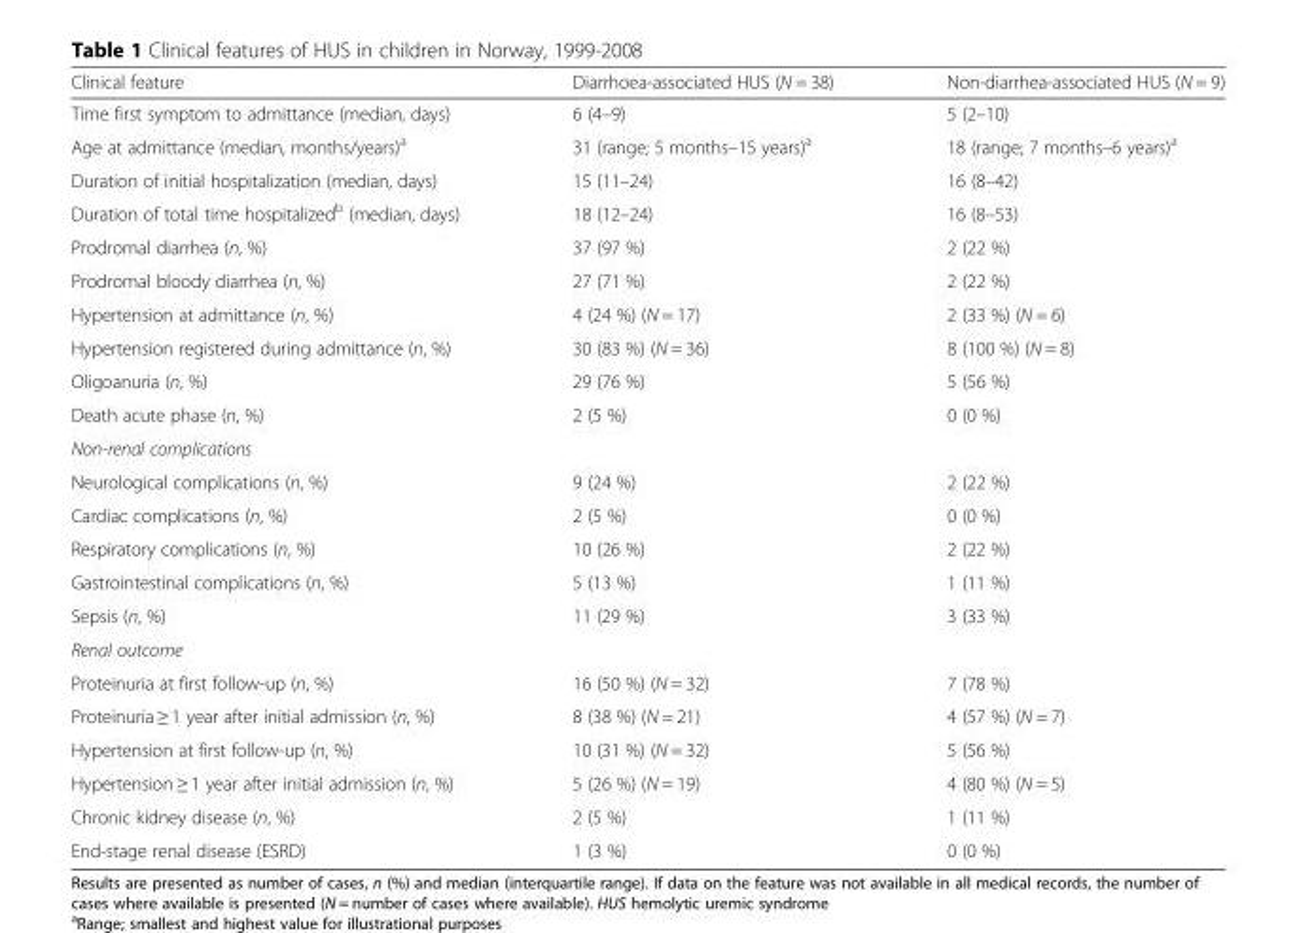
<table><thead><tr><td>Clinical feature</td><td>Diarrhoea-associated HUS (N = 38)</td><td>Non-diarrhea-associated HUS (N = 9)</td></tr></thead><tbody><tr><td>Time first symptom to admittance (median, days)</td><td>6 (4–9)</td><td>5 (2–10)</td></tr><tr><td>Age at admittance (median, months/years)<sup>a</sup></td><td>31 (range; 5 months–15 years)<sup>a</sup></td><td>18 (range; 7 months–6 years)<sup>a</sup></td></tr><tr><td>Duration of initial hospitalization (median, days)</td><td>15 (11–24)</td><td>16 (8–42)</td></tr><tr><td>Duration of total time hospitalized<sup>b</sup> (median, days)</td><td>18 (12–24)</td><td>16 (8–53)</td></tr><tr><td>Prodromal diarrhea (n, %)</td><td>37 (97 %)</td><td>2 (22 %)</td></tr><tr><td>Prodromal bloody diarrhea (n, %)</td><td>27 (71 %)</td><td>2 (22 %)</td></tr><tr><td>Hypertension at admittance (n, %)</td><td>4 (24 %) (N = 17)</td><td>2 (33 %) (N = 6)</td></tr><tr><td>Hypertension registered during admittance (n, %)</td><td>30 (83 %) (N = 36)</td><td>8 (100 %) (N = 8)</td></tr><tr><td>Oligoanuria (n, %)</td><td>29 (76 %)</td><td>5 (56 %)</td></tr><tr><td>Death acute phase (n, %)</td><td>2 (5 %)</td><td>0 (0 %)</td></tr><tr><td colspan="3">Non-renal complications</td></tr><tr><td>Neurological complications (n, %)</td><td>9 (24 %)</td><td>2 (22 %)</td></tr><tr><td>Cardiac complications (n, %)</td><td>2 (5 %)</td><td>0 (0 %)</td></tr><tr><td>Respiratory complications (n, %)</td><td>10 (26 %)</td><td>2 (22 %)</td></tr><tr><td>Gastrointestinal complications (n, %)</td><td>5 (13 %)</td><td>1 (11 %)</td></tr><tr><td>Sepsis (n, %)</td><td>11 (29 %)</td><td>3 (33 %)</td></tr><tr><td colspan="3">Renal outcome</td></tr><tr><td>Proteinuria at first follow-up (n, %)</td><td>16 (50 %) (N = 32)</td><td>7 (78 %)</td></tr><tr><td>Proteinuria ≥ 1 year after initial admission (n, %)</td><td>8 (38 %) (N = 21)</td><td>4 (57 %) (N = 7)</td></tr><tr><td>Hypertension at first follow-up (n, %)</td><td>10 (31 %) (N = 32)</td><td>5 (56 %)</td></tr><tr><td>Hypertension ≥ 1 year after initial admission (n, %)</td><td>5 (26 %) (N = 19)</td><td>4 (80 %) (N = 5)</td></tr><tr><td>Chronic kidney disease (n, %)</td><td>2 (5 %)</td><td>1 (11 %)</td></tr><tr><td>End-stage renal disease (ESRD)</td><td>1 (3 %)</td><td>0 (0 %)</td></tr></tbody></table>